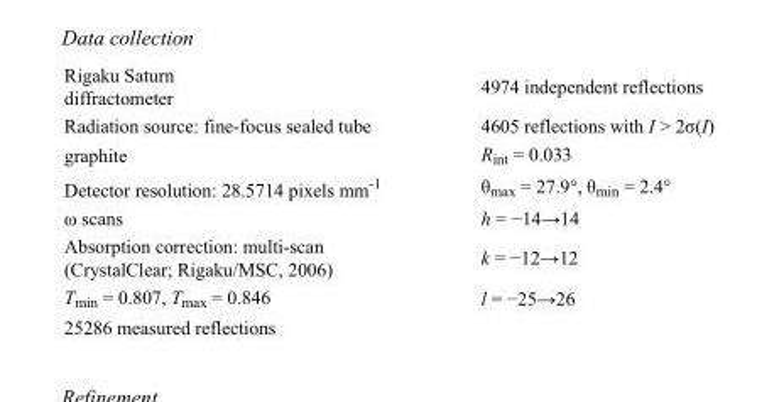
<table><tbody><tr><td>Rigaku Saturn diffractometer</td><td>4974 independent reflections</td></tr><tr><td>Radiation source: fine-focus sealed tube</td><td>4605 reflections with I &gt; 2σ(I)</td></tr><tr><td>graphite</td><td>R<sub>int</sub> = 0.033</td></tr><tr><td>Detector resolution: 28.5714 pixels mm<sup>-1</sup></td><td>θ<sub>max</sub> = 27.9°, θ<sub>min</sub> = 2.4°</td></tr><tr><td>ω scans</td><td>h = −14→14</td></tr><tr><td>Absorption correction: multi-scan (CrystalClear; Rigaku/MSC, 2006)</td><td>k = −12→12</td></tr><tr><td>T<sub>min</sub> = 0.807, T<sub>max</sub> = 0.846</td><td>l = −25→26</td></tr><tr><td>25286 measured reflections</td><td></td></tr></tbody></table>